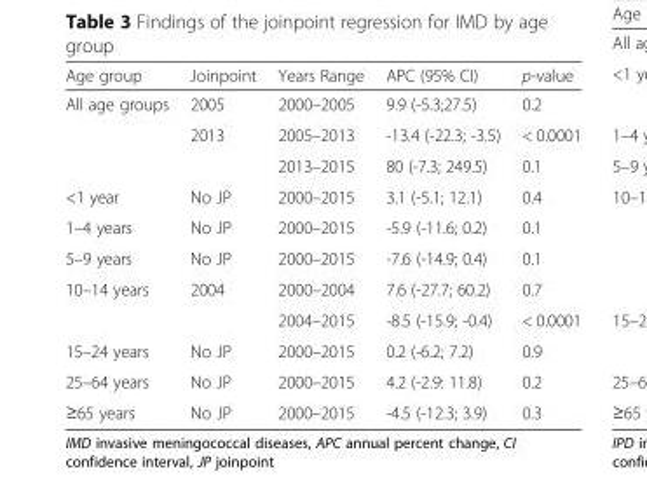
<table><thead><tr><td>Age group</td><td>Joinpoint</td><td>Years Range</td><td>APC (95% CI)</td><td>p-value</td></tr></thead><tbody><tr><td rowspan="3">All age groups</td><td>2005</td><td>2000–2005</td><td>9.9 (-5.3;27.5)</td><td>0.2</td></tr><tr><td>2013</td><td>2005–2013</td><td>-13.4 (-22.3; -3.5)</td><td>&lt; 0.0001</td></tr><tr><td></td><td>2013–2015</td><td>80 (-7.3; 249.5)</td><td>0.1</td></tr><tr><td>&lt;1 year</td><td>No JP</td><td>2000–2015</td><td>3.1 (-5.1; 12.1)</td><td>0.4</td></tr><tr><td>1–4 years</td><td>No JP</td><td>2000–2015</td><td>-5.9 (-11.6; 0.2)</td><td>0.1</td></tr><tr><td>5–9 years</td><td>No JP</td><td>2000–2015</td><td>-7.6 (-14.9; 0.4)</td><td>0.1</td></tr><tr><td rowspan="2">10–14 years</td><td>2004</td><td>2000–2004</td><td>7.6 (-27.7; 60.2)</td><td>0.7</td></tr><tr><td></td><td>2004–2015</td><td>-8.5 (-15.9; -0.4)</td><td>&lt; 0.0001</td></tr><tr><td>15–24 years</td><td>No JP</td><td>2000–2015</td><td>0.2 (-6.2; 7.2)</td><td>0.9</td></tr><tr><td>25–64 years</td><td>No JP</td><td>2000–2015</td><td>4.2 (-2.9: 11.8)</td><td>0.2</td></tr><tr><td>≥65 years</td><td>No JP</td><td>2000–2015</td><td>-4.5 (-12.3; 3.9)</td><td>0.3</td></tr></tbody></table>